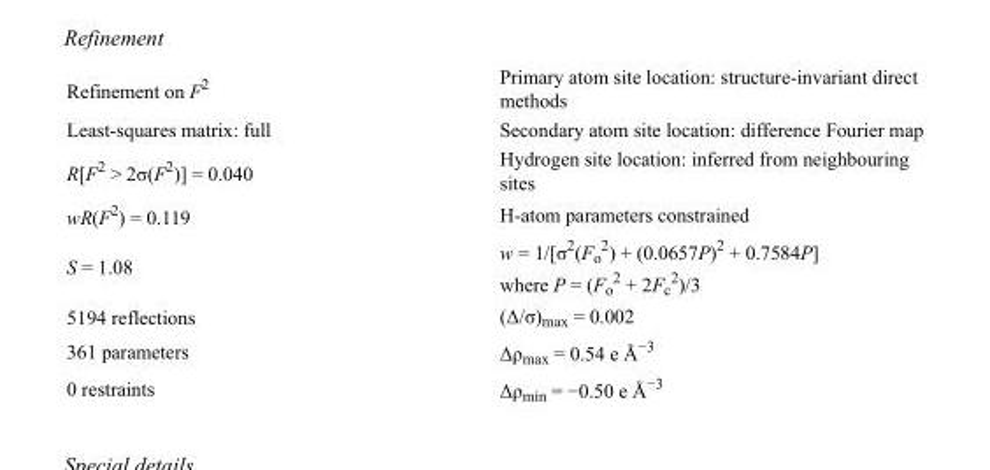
<table><tbody><tr><td>Refinement on F<sup>2</sup></td><td>Primary atom site location: structure-invariant direct methods</td></tr><tr><td>Least-squares matrix: full</td><td>Secondary atom site location: difference Fourier map</td></tr><tr><td>R[F<sup>2</sup> &gt; 2σ(F<sup>2</sup>)] = 0.040</td><td>Hydrogen site location: inferred from neighbouring sites</td></tr><tr><td>wR(F<sup>2</sup>) = 0.119</td><td>H-atom parameters constrained</td></tr><tr><td>S = 1.08</td><td>w = 1/[σ<sup>2</sup>(F<sub>o</sub> <sup>2</sup>) + (0.0657P)<sup>2</sup> + 0.7584P] where P = (F<sub>o</sub> <sup>2</sup> + 2F<sub>c</sub> <sup>2</sup>)/3</td></tr><tr><td>5194 reflections</td><td>(Δ/σ)<sub>max</sub> = 0.002</td></tr><tr><td>361 parameters</td><td>Δρ<sub>max</sub> = 0.54 e Å<sup>−3</sup></td></tr><tr><td>0 restraints</td><td>Δρ<sub>min</sub> = −0.50 e Å<sup>−3</sup></td></tr></tbody></table>